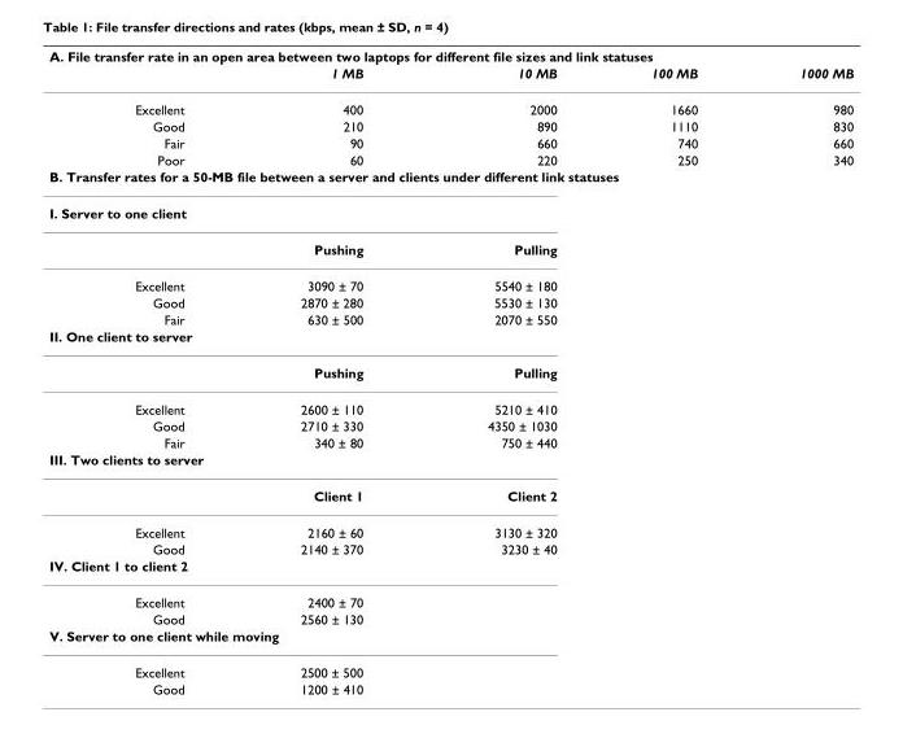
<table><thead><tr><td colspan="5">A. File transfer rate in an open area between two laptops for different file sizes and link statuses</td></tr><tr><td></td><td>1 MB</td><td>10 MB</td><td>100 MB</td><td>1000 MB</td></tr></thead><tbody><tr><td>Excellent</td><td>400</td><td>2000</td><td>1660</td><td>980</td></tr><tr><td>Good</td><td>210</td><td>890</td><td>1110</td><td>830</td></tr><tr><td>Fair</td><td>90</td><td>660</td><td>740</td><td>660</td></tr><tr><td>Poor</td><td>60</td><td>220</td><td>250</td><td>340</td></tr><tr><td colspan="5">B. Transfer rates for a 50-MB file between a server and clients under different link statuses</td></tr><tr><td colspan="5">I. Server to one client</td></tr><tr><td></td><td>Pushing</td><td>Pulling</td><td></td><td></td></tr><tr><td>Excellent</td><td>3090 ± 70</td><td>5540 ± 180</td><td></td><td></td></tr><tr><td>Good</td><td>2870 ± 280</td><td>5530 ± 130</td><td></td><td></td></tr><tr><td>Fair</td><td>630 ± 500</td><td>2070 ± 550</td><td></td><td></td></tr><tr><td colspan="5">II. One client to server</td></tr><tr><td></td><td>Pushing</td><td>Pulling</td><td></td><td></td></tr><tr><td>Excellent</td><td>2600 ± 110</td><td>5210 ± 410</td><td></td><td></td></tr><tr><td>Good</td><td>2710 ± 330</td><td>4350 ± 1030</td><td></td><td></td></tr><tr><td>Fair</td><td>340 ± 80</td><td>750 ± 440</td><td></td><td></td></tr><tr><td colspan="5">III. Two clients to server</td></tr><tr><td></td><td>Client 1</td><td>Client 2</td><td></td><td></td></tr><tr><td>Excellent</td><td>2160 ± 60</td><td>3130 ± 320</td><td></td><td></td></tr><tr><td>Good</td><td>2140 ± 370</td><td>3230 ± 40</td><td></td><td></td></tr><tr><td colspan="5">IV. Client 1 to client 2</td></tr><tr><td>Excellent</td><td>2400 ± 70</td><td></td><td></td><td></td></tr><tr><td>Good</td><td>2560 ± 130</td><td></td><td></td><td></td></tr><tr><td colspan="5">V. Server to one client while moving</td></tr><tr><td>Excellent</td><td>2500 ± 500</td><td></td><td></td><td></td></tr><tr><td>Good</td><td>1200 ± 410</td><td></td><td></td><td></td></tr></tbody></table>